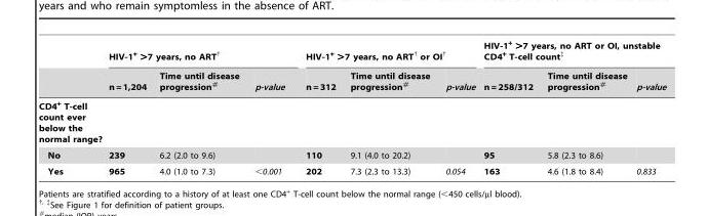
<table><thead><tr><td rowspan="2"></td><td colspan="3">HIV-1<sup>+</sup> &gt;7 years, no ART†</td><td colspan="3">HIV-1<sup>+</sup> &gt;7 years, no ART† or OI†</td><td colspan="3">HIV-1<sup>+</sup> &gt;7 years, no ART or OI, unstable CD4<sup>+</sup> T-cell count‡</td></tr><tr><td>n = 1,204</td><td>Time until disease progression#</td><td>p-value</td><td>n = 312</td><td>Time until disease progression#</td><td>p-value</td><td>n = 258/312</td><td>Time until disease progression#</td><td>p-value</td></tr></thead><tbody><tr><td colspan="10">CD4<sup>+</sup> T-cell count ever below the normal range?</td></tr><tr><td>No</td><td>239</td><td>6.2 (2.0 to 9.6)</td><td></td><td>110</td><td>9.1 (4.0 to 20.2)</td><td></td><td>95</td><td>5.8 (2.3 to 8.6)</td><td></td></tr><tr><td>Yes</td><td>965</td><td>4.0 (1.0 to 7.3)</td><td>&lt;0.001</td><td>202</td><td>7.3 (2.3 to 13.3)</td><td>0.054</td><td>163</td><td>4.6 (1.8 to 8.4)</td><td>0.833</td></tr></tbody></table>